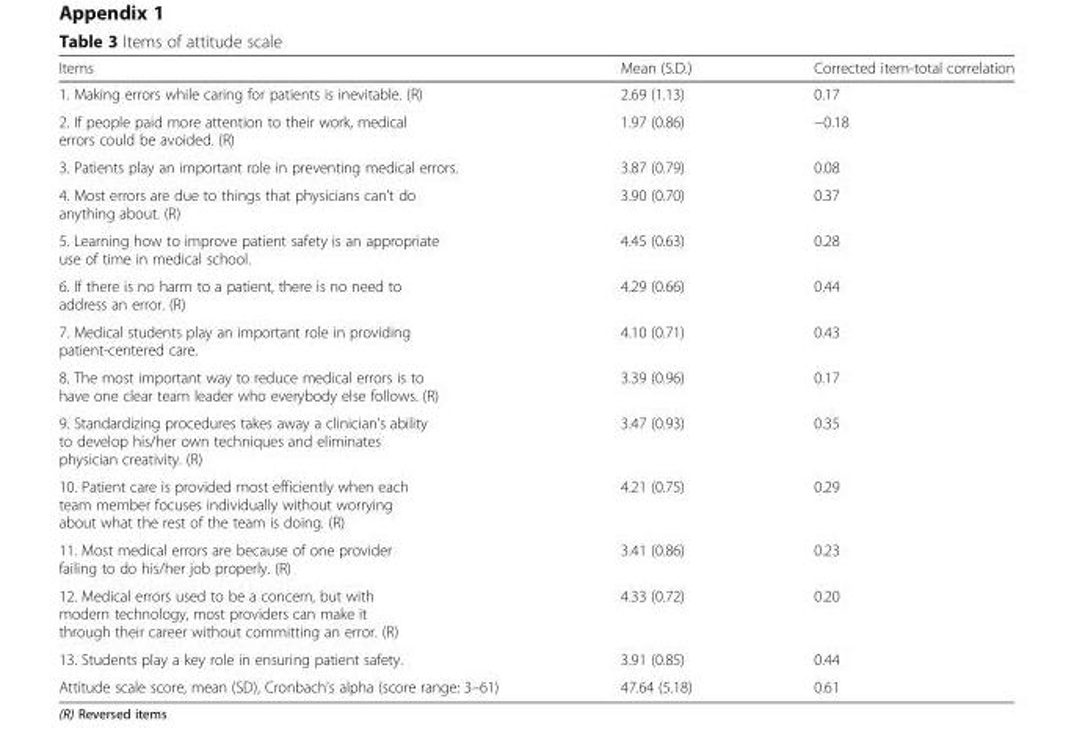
<table><thead><tr><td>Items</td><td>Mean (S.D.)</td><td>Corrected item-total correlation</td></tr></thead><tbody><tr><td>1. Making errors while caring for patients is inevitable. (R)</td><td>2.69 (1.13)</td><td>0.17</td></tr><tr><td>2. If people paid more attention to their work, medical errors could be avoided. (R)</td><td>1.97 (0.86)</td><td>−0.18</td></tr><tr><td>3. Patients play an important role in preventing medical errors.</td><td>3.87 (0.79)</td><td>0.08</td></tr><tr><td>4. Most errors are due to things that physicians can’t do anything about. (R)</td><td>3.90 (0.70)</td><td>0.37</td></tr><tr><td>5. Learning how to improve patient safety is an appropriate use of time in medical school.</td><td>4.45 (0.63)</td><td>0.28</td></tr><tr><td>6. If there is no harm to a patient, there is no need to address an error. (R)</td><td>4.29 (0.66)</td><td>0.44</td></tr><tr><td>7. Medical students play an important role in providing patient-centered care.</td><td>4.10 (0.71)</td><td>0.43</td></tr><tr><td>8. The most important way to reduce medical errors is to have one clear team leader who everybody else follows. (R)</td><td>3.39 (0.96)</td><td>0.17</td></tr><tr><td>9. Standardizing procedures takes away a clinician’s ability to develop his/her own techniques and eliminates physician creativity. (R)</td><td>3.47 (0.93)</td><td>0.35</td></tr><tr><td>10. Patient care is provided most efficiently when each team member focuses individually without worrying about what the rest of the team is doing. (R)</td><td>4.21 (0.75)</td><td>0.29</td></tr><tr><td>11. Most medical errors are because of one provider failing to do his/her job properly. (R)</td><td>3.41 (0.86)</td><td>0.23</td></tr><tr><td>12. Medical errors used to be a concern, but with modern technology, most providers can make it through their career without committing an error. (R)</td><td>4.33 (0.72)</td><td>0.20</td></tr><tr><td>13. Students play a key role in ensuring patient safety.</td><td>3.91 (0.85)</td><td>0.44</td></tr><tr><td>Attitude scale score, mean (SD), Cronbach’s alpha (score range: 3–61)</td><td>47.64 (5.18)</td><td>0.61</td></tr></tbody></table>